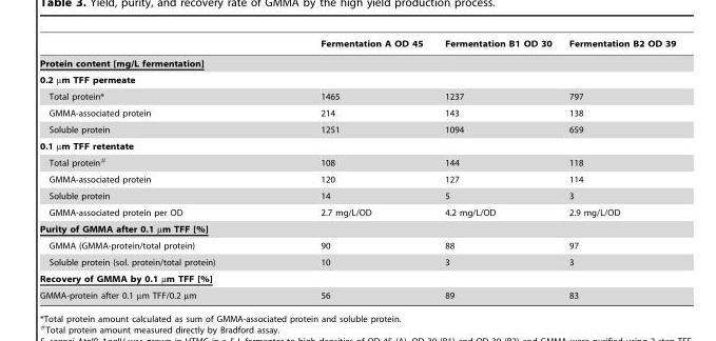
<table><thead><tr><td></td><td>Fermentation A OD 45</td><td>Fermentation B1 OD 30</td><td>Fermentation B2 OD 39</td></tr></thead><tbody><tr><td colspan="4">Protein content [mg/L fermentation]</td></tr><tr><td colspan="4">0.2 µm TFF permeate</td></tr><tr><td>Total protein*</td><td>1465</td><td>1237</td><td>797</td></tr><tr><td>GMMA-associated protein</td><td>214</td><td>143</td><td>138</td></tr><tr><td>Soluble protein</td><td>1251</td><td>1094</td><td>659</td></tr><tr><td colspan="4">0.1 µm TFF retentate</td></tr><tr><td>Total protein#</td><td>108</td><td>144</td><td>118</td></tr><tr><td>GMMA-associated protein</td><td>120</td><td>127</td><td>114</td></tr><tr><td>Soluble protein</td><td>14</td><td>5</td><td>3</td></tr><tr><td>GMMA-associated protein per OD</td><td>2.7 mg/L/OD</td><td>4.2 mg/L/OD</td><td>2.9 mg/L/OD</td></tr><tr><td colspan="4">Purity of GMMA after 0.1 µm TFF [%]</td></tr><tr><td>GMMA (GMMA-protein/total protein)</td><td>90</td><td>88</td><td>97</td></tr><tr><td>Soluble protein (sol. protein/total protein)</td><td>10</td><td>3</td><td>3</td></tr><tr><td colspan="4">Recovery of GMMA by 0.1 µm TFF [%]</td></tr><tr><td>GMMA-protein after 0.1 µm TFF/0.2 µm</td><td>56</td><td>89</td><td>83</td></tr></tbody></table>